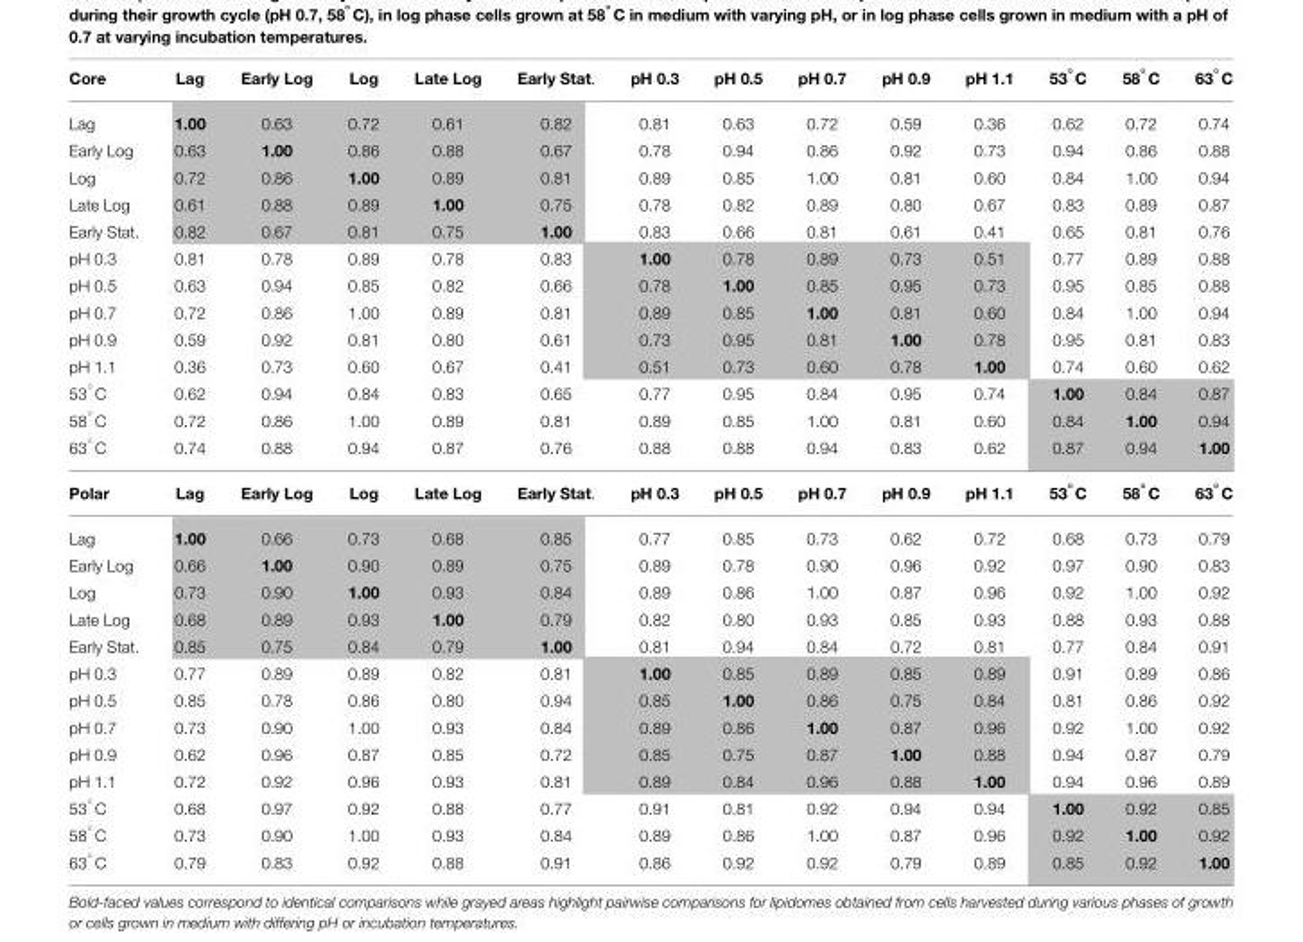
<table><thead><tr><td>Core</td><td>Lag</td><td>Early Log</td><td>Log</td><td>Late Log</td><td>Early Stat.</td><td>pH 0.3</td><td>pH 0.5</td><td>pH 0.7</td><td>pH 0.9</td><td>pH 1.1</td><td>53 ◦C</td><td>58 ◦C</td><td>63 ◦C</td></tr></thead><tbody><tr><td>Lag</td><td>1.00</td><td>0.63</td><td>0.72</td><td>0.61</td><td>0.82</td><td>0.81</td><td>0.63</td><td>0.72</td><td>0.59</td><td>0.36</td><td>0.62</td><td>0.72</td><td>0.74</td></tr><tr><td>Early Log</td><td>0.63</td><td>1.00</td><td>0.86</td><td>0.88</td><td>0.67</td><td>0.78</td><td>0.94</td><td>0.86</td><td>0.92</td><td>0.73</td><td>0.94</td><td>0.86</td><td>0.88</td></tr><tr><td>Log</td><td>0.72</td><td>0.86</td><td>1.00</td><td>0.89</td><td>0.81</td><td>0.89</td><td>0.85</td><td>1.00</td><td>0.81</td><td>0.60</td><td>0.84</td><td>1.00</td><td>0.94</td></tr><tr><td>Late Log</td><td>0.61</td><td>0.88</td><td>0.89</td><td>1.00</td><td>0.75</td><td>0.78</td><td>0.82</td><td>0.89</td><td>0.80</td><td>0.67</td><td>0.83</td><td>0.89</td><td>0.87</td></tr><tr><td>Early Stat.</td><td>0.82</td><td>0.67</td><td>0.81</td><td>0.75</td><td>1.00</td><td>0.83</td><td>0.66</td><td>0.81</td><td>0.61</td><td>0.41</td><td>0.65</td><td>0.81</td><td>0.76</td></tr><tr><td>pH 0.3</td><td>0.81</td><td>0.78</td><td>0.89</td><td>0.78</td><td>0.83</td><td>1.00</td><td>0.78</td><td>0.89</td><td>0.73</td><td>0.51</td><td>0.77</td><td>0.89</td><td>0.88</td></tr><tr><td>pH 0.5</td><td>0.63</td><td>0.94</td><td>0.85</td><td>0.82</td><td>0.66</td><td>0.78</td><td>1.00</td><td>0.85</td><td>0.95</td><td>0.73</td><td>0.95</td><td>0.85</td><td>0.88</td></tr><tr><td>pH 0.7</td><td>0.72</td><td>0.86</td><td>1.00</td><td>0.89</td><td>0.81</td><td>0.89</td><td>0.85</td><td>1.00</td><td>0.81</td><td>0.60</td><td>0.84</td><td>1.00</td><td>0.94</td></tr><tr><td>pH 0.9</td><td>0.59</td><td>0.92</td><td>0.81</td><td>0.80</td><td>0.61</td><td>0.73</td><td>0.95</td><td>0.81</td><td>1.00</td><td>0.78</td><td>0.95</td><td>0.81</td><td>0.83</td></tr><tr><td>pH 1.1</td><td>0.36</td><td>0.73</td><td>0.60</td><td>0.67</td><td>0.41</td><td>0.51</td><td>0.73</td><td>0.60</td><td>0.78</td><td>1.00</td><td>0.74</td><td>0.60</td><td>0.62</td></tr><tr><td>53 ◦C</td><td>0.62</td><td>0.94</td><td>0.84</td><td>0.83</td><td>0.65</td><td>0.77</td><td>0.95</td><td>0.84</td><td>0.95</td><td>0.74</td><td>1.00</td><td>0.84</td><td>0.87</td></tr><tr><td>58 ◦C</td><td>0.72</td><td>0.86</td><td>1.00</td><td>0.89</td><td>0.81</td><td>0.89</td><td>0.85</td><td>1.00</td><td>0.81</td><td>0.60</td><td>0.84</td><td>1.00</td><td>0.94</td></tr><tr><td>63 ◦C</td><td>0.74</td><td>0.88</td><td>0.94</td><td>0.87</td><td>0.76</td><td>0.88</td><td>0.88</td><td>0.94</td><td>0.83</td><td>0.62</td><td>0.87</td><td>0.94</td><td>1.00</td></tr><tr><td>Polar</td><td>Lag</td><td>Early Log</td><td>Log</td><td>Late Log</td><td>Early Stat.</td><td>pH 0.3</td><td>pH 0.5</td><td>pH 0.7</td><td>pH 0.9</td><td>pH 1.1</td><td>53 ◦C</td><td>58 ◦C</td><td>63 ◦C</td></tr><tr><td>Lag</td><td>1.00</td><td>0.66</td><td>0.73</td><td>0.68</td><td>0.85</td><td>0.77</td><td>0.85</td><td>0.73</td><td>0.62</td><td>0.72</td><td>0.68</td><td>0.73</td><td>0.79</td></tr><tr><td>Early Log</td><td>0.66</td><td>1.00</td><td>0.90</td><td>0.89</td><td>0.75</td><td>0.89</td><td>0.78</td><td>0.90</td><td>0.96</td><td>0.92</td><td>0.97</td><td>0.90</td><td>0.83</td></tr><tr><td>Log</td><td>0.73</td><td>0.90</td><td>1.00</td><td>0.93</td><td>0.84</td><td>0.89</td><td>0.86</td><td>1.00</td><td>0.87</td><td>0.96</td><td>0.92</td><td>1.00</td><td>0.92</td></tr><tr><td>Late Log</td><td>0.68</td><td>0.89</td><td>0.93</td><td>1.00</td><td>0.79</td><td>0.82</td><td>0.80</td><td>0.93</td><td>0.85</td><td>0.93</td><td>0.88</td><td>0.93</td><td>0.88</td></tr><tr><td>Early Stat.</td><td>0.85</td><td>0.75</td><td>0.84</td><td>0.79</td><td>1.00</td><td>0.81</td><td>0.94</td><td>0.84</td><td>0.72</td><td>0.81</td><td>0.77</td><td>0.84</td><td>0.91</td></tr><tr><td>pH 0.3</td><td>0.77</td><td>0.89</td><td>0.89</td><td>0.82</td><td>0.81</td><td>1.00</td><td>0.85</td><td>0.89</td><td>0.85</td><td>0.89</td><td>0.91</td><td>0.89</td><td>0.86</td></tr><tr><td>pH 0.5</td><td>0.85</td><td>0.78</td><td>0.86</td><td>0.80</td><td>0.94</td><td>0.85</td><td>1.00</td><td>0.86</td><td>0.75</td><td>0.84</td><td>0.81</td><td>0.86</td><td>0.92</td></tr><tr><td>pH 0.7</td><td>0.73</td><td>0.90</td><td>1.00</td><td>0.93</td><td>0.84</td><td>0.89</td><td>0.86</td><td>1.00</td><td>0.87</td><td>0.96</td><td>0.92</td><td>1.00</td><td>0.92</td></tr><tr><td>pH 0.9</td><td>0.62</td><td>0.96</td><td>0.87</td><td>0.85</td><td>0.72</td><td>0.85</td><td>0.75</td><td>0.87</td><td>1.00</td><td>0.88</td><td>0.94</td><td>0.87</td><td>0.79</td></tr><tr><td>pH 1.1</td><td>0.72</td><td>0.92</td><td>0.96</td><td>0.93</td><td>0.81</td><td>0.89</td><td>0.84</td><td>0.96</td><td>0.88</td><td>1.00</td><td>0.94</td><td>0.96</td><td>0.89</td></tr><tr><td>53 ◦C</td><td>0.68</td><td>0.97</td><td>0.92</td><td>0.88</td><td>0.77</td><td>0.91</td><td>0.81</td><td>0.92</td><td>0.94</td><td>0.94</td><td>1.00</td><td>0.92</td><td>0.85</td></tr><tr><td>58 ◦C</td><td>0.73</td><td>0.90</td><td>1.00</td><td>0.93</td><td>0.84</td><td>0.89</td><td>0.86</td><td>1.00</td><td>0.87</td><td>0.96</td><td>0.92</td><td>1.00</td><td>0.92</td></tr><tr><td>63 ◦C</td><td>0.79</td><td>0.83</td><td>0.92</td><td>0.88</td><td>0.91</td><td>0.86</td><td>0.92</td><td>0.92</td><td>0.79</td><td>0.89</td><td>0.85</td><td>0.92</td><td>1.00</td></tr></tbody></table>